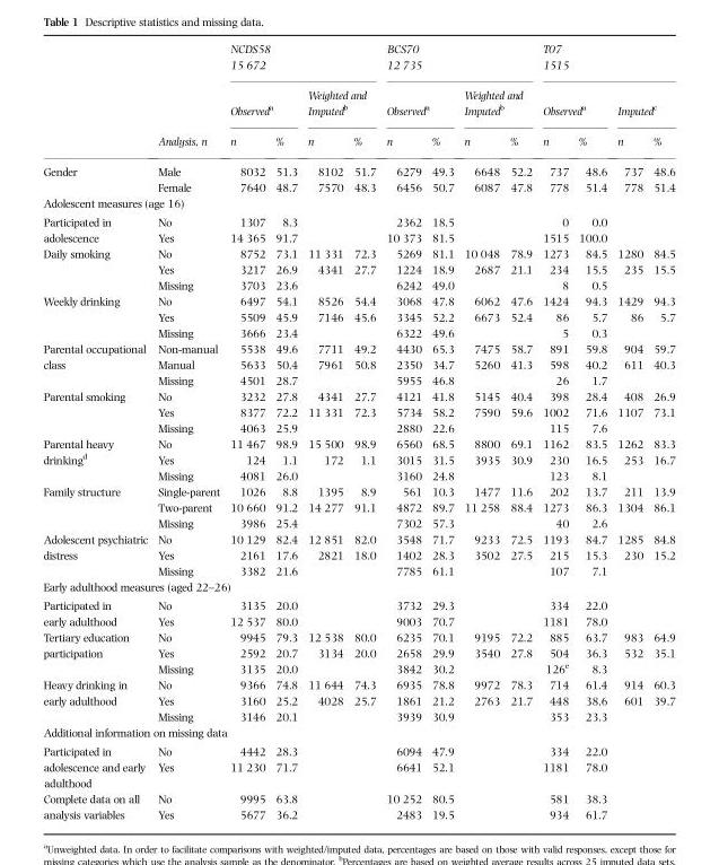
<table><thead><tr><td rowspan="4"></td><td rowspan="4">Analysis, n</td><td rowspan="2" colspan="4">NCDS58 15 672</td><td rowspan="2" colspan="4">BCS70 12 735</td><td rowspan="2" colspan="4">T07 1515</td></tr><tr></tr><tr><td colspan="2">Observeda</td><td colspan="2">Weighted and Imputedb</td><td colspan="2">Observeda</td><td colspan="2">Weighted and Imputedb</td><td colspan="2">Observeda</td><td colspan="2">Imputedc</td></tr><tr><td>n</td><td>%</td><td>n</td><td>%</td><td>n</td><td>%</td><td>n</td><td>%</td><td>n</td><td>%</td><td>n</td><td>%</td></tr></thead><tbody><tr><td rowspan="2">Gender</td><td>Male</td><td>8032</td><td>51.3</td><td>8102</td><td>51.7</td><td>6279</td><td>49.3</td><td>6648</td><td>52.2</td><td>737</td><td>48.6</td><td>737</td><td>48.6</td></tr><tr><td>Female</td><td>7640</td><td>48.7</td><td>7570</td><td>48.3</td><td>6456</td><td>50.7</td><td>6087</td><td>47.8</td><td>778</td><td>51.4</td><td>778</td><td>51.4</td></tr><tr><td colspan="14">Adolescent measures (age 16)</td></tr><tr><td rowspan="2">Participated in adolescence</td><td>No</td><td>1307</td><td>8.3</td><td></td><td></td><td>2362</td><td>18.5</td><td></td><td></td><td>0</td><td>0.0</td><td></td><td></td></tr><tr><td>Yes</td><td>14 365</td><td>91.7</td><td></td><td></td><td>10 373</td><td>81.5</td><td></td><td></td><td>1515</td><td>100.0</td><td></td><td></td></tr><tr><td rowspan="3">Daily smoking</td><td>No</td><td>8752</td><td>73.1</td><td>11 331</td><td>72.3</td><td>5269</td><td>81.1</td><td>10 048</td><td>78.9</td><td>1273</td><td>84.5</td><td>1280</td><td>84.5</td></tr><tr><td>Yes</td><td>3217</td><td>26.9</td><td>4341</td><td>27.7</td><td>1224</td><td>18.9</td><td>2687</td><td>21.1</td><td>234</td><td>15.5</td><td>235</td><td>15.5</td></tr><tr><td>Missing</td><td>3703</td><td>23.6</td><td></td><td></td><td>6242</td><td>49.0</td><td></td><td></td><td>8</td><td>0.5</td><td></td><td></td></tr><tr><td rowspan="3">Weekly drinking</td><td>No</td><td>6497</td><td>54.1</td><td>8526</td><td>54.4</td><td>3068</td><td>47.8</td><td>6062</td><td>47.6</td><td>1424</td><td>94.3</td><td>1429</td><td>94.3</td></tr><tr><td>Yes</td><td>5509</td><td>45.9</td><td>7146</td><td>45.6</td><td>3345</td><td>52.2</td><td>6673</td><td>52.4</td><td>86</td><td>5.7</td><td>86</td><td>5.7</td></tr><tr><td>Missing</td><td>3666</td><td>23.4</td><td></td><td></td><td>6322</td><td>49.6</td><td></td><td></td><td>5</td><td>0.3</td><td></td><td></td></tr><tr><td rowspan="3">Parental occupational class</td><td>Non-manual</td><td>5538</td><td>49.6</td><td>7711</td><td>49.2</td><td>4430</td><td>65.3</td><td>7475</td><td>58.7</td><td>891</td><td>59.8</td><td>904</td><td>59.7</td></tr><tr><td>Manual</td><td>5633</td><td>50.4</td><td>7961</td><td>50.8</td><td>2350</td><td>34.7</td><td>5260</td><td>41.3</td><td>598</td><td>40.2</td><td>611</td><td>40.3</td></tr><tr><td>Missing</td><td>4501</td><td>28.7</td><td></td><td></td><td>5955</td><td>46.8</td><td></td><td></td><td>26</td><td>1.7</td><td></td><td></td></tr><tr><td rowspan="3">Parental smoking</td><td>No</td><td>3232</td><td>27.8</td><td>4341</td><td>27.7</td><td>4121</td><td>41.8</td><td>5145</td><td>40.4</td><td>398</td><td>28.4</td><td>408</td><td>26.9</td></tr><tr><td>Yes</td><td>8377</td><td>72.2</td><td>11 331</td><td>72.3</td><td>5734</td><td>58.2</td><td>7590</td><td>59.6</td><td>1002</td><td>71.6</td><td>1107</td><td>73.1</td></tr><tr><td>Missing</td><td>4063</td><td>25.9</td><td></td><td></td><td>2880</td><td>22.6</td><td></td><td></td><td>115</td><td>7.6</td><td></td><td></td></tr><tr><td rowspan="3">Parental heavy drinking<sup>d</sup></td><td>No</td><td>11 467</td><td>98.9</td><td>15 500</td><td>98.9</td><td>6560</td><td>68.5</td><td>8800</td><td>69.1</td><td>1162</td><td>83.5</td><td>1262</td><td>83.3</td></tr><tr><td>Yes</td><td>124</td><td>1.1</td><td>172</td><td>1.1</td><td>3015</td><td>31.5</td><td>3935</td><td>30.9</td><td>230</td><td>16.5</td><td>253</td><td>16.7</td></tr><tr><td>Missing</td><td>4081</td><td>26.0</td><td></td><td></td><td>3160</td><td>24.8</td><td></td><td></td><td>123</td><td>8.1</td><td></td><td></td></tr><tr><td rowspan="3">Family structure</td><td>Single-parent</td><td>1026</td><td>8.8</td><td>1395</td><td>8.9</td><td>561</td><td>10.3</td><td>1477</td><td>11.6</td><td>202</td><td>13.7</td><td>211</td><td>13.9</td></tr><tr><td>Two-parent</td><td>10 660</td><td>91.2</td><td>14 277</td><td>91.1</td><td>4872</td><td>89.7</td><td>11 258</td><td>88.4</td><td>1273</td><td>86.3</td><td>1304</td><td>86.1</td></tr><tr><td>Missing</td><td>3986</td><td>25.4</td><td></td><td></td><td>7302</td><td>57.3</td><td></td><td></td><td>40</td><td>2.6</td><td></td><td></td></tr><tr><td rowspan="3">Adolescent psychiatric distress</td><td>No</td><td>10 129</td><td>82.4</td><td>12 851</td><td>82.0</td><td>3548</td><td>71.7</td><td>9233</td><td>72.5</td><td>1193</td><td>84.7</td><td>1285</td><td>84.8</td></tr><tr><td>Yes</td><td>2161</td><td>17.6</td><td>2821</td><td>18.0</td><td>1402</td><td>28.3</td><td>3502</td><td>27.5</td><td>215</td><td>15.3</td><td>230</td><td>15.2</td></tr><tr><td>Missing</td><td>3382</td><td>21.6</td><td></td><td></td><td>7785</td><td>61.1</td><td></td><td></td><td>107</td><td>7.1</td><td></td><td></td></tr><tr><td colspan="14">Early adulthood measures (aged 22–26)</td></tr><tr><td rowspan="2">Participated in early adulthood</td><td>No</td><td>3135</td><td>20.0</td><td></td><td></td><td>3732</td><td>29.3</td><td></td><td></td><td>334</td><td>22.0</td><td></td><td></td></tr><tr><td>Yes</td><td>12 537</td><td>80.0</td><td></td><td></td><td>9003</td><td>70.7</td><td></td><td></td><td>1181</td><td>78.0</td><td></td><td></td></tr><tr><td rowspan="3">Tertiary education participation</td><td>No</td><td>9945</td><td>79.3</td><td>12 538</td><td>80.0</td><td>6235</td><td>70.1</td><td>9195</td><td>72.2</td><td>885</td><td>63.7</td><td>983</td><td>64.9</td></tr><tr><td>Yes</td><td>2592</td><td>20.7</td><td>3134</td><td>20.0</td><td>2658</td><td>29.9</td><td>3540</td><td>27.8</td><td>504</td><td>36.3</td><td>532</td><td>35.1</td></tr><tr><td>Missing</td><td>3135</td><td>20.0</td><td></td><td></td><td>3842</td><td>30.2</td><td></td><td></td><td>126<sup>e</sup></td><td>8.3</td><td></td><td></td></tr><tr><td rowspan="3">Heavy drinking in early adulthood</td><td>No</td><td>9366</td><td>74.8</td><td>11 644</td><td>74.3</td><td>6935</td><td>78.8</td><td>9972</td><td>78.3</td><td>714</td><td>61.4</td><td>914</td><td>60.3</td></tr><tr><td>Yes</td><td>3160</td><td>25.2</td><td>4028</td><td>25.7</td><td>1861</td><td>21.2</td><td>2763</td><td>21.7</td><td>448</td><td>38.6</td><td>601</td><td>39.7</td></tr><tr><td>Missing</td><td>3146</td><td>20.1</td><td></td><td></td><td>3939</td><td>30.9</td><td></td><td></td><td>353</td><td>23.3</td><td></td><td></td></tr><tr><td colspan="14">Additional information on missing data</td></tr><tr><td rowspan="2">Participated in adolescence and early adulthood</td><td>No</td><td>4442</td><td>28.3</td><td></td><td></td><td>6094</td><td>47.9</td><td></td><td></td><td>334</td><td>22.0</td><td></td><td></td></tr><tr><td>Yes</td><td>11 230</td><td>71.7</td><td></td><td></td><td>6641</td><td>52.1</td><td></td><td></td><td>1181</td><td>78.0</td><td></td><td></td></tr><tr><td rowspan="2">Complete data on all analysis variables</td><td>No</td><td>9995</td><td>63.8</td><td></td><td></td><td>10 252</td><td>80.5</td><td></td><td></td><td>581</td><td>38.3</td><td></td><td></td></tr><tr><td>Yes</td><td>5677</td><td>36.2</td><td></td><td></td><td>2483</td><td>19.5</td><td></td><td></td><td>934</td><td>61.7</td><td></td><td></td></tr></tbody></table>